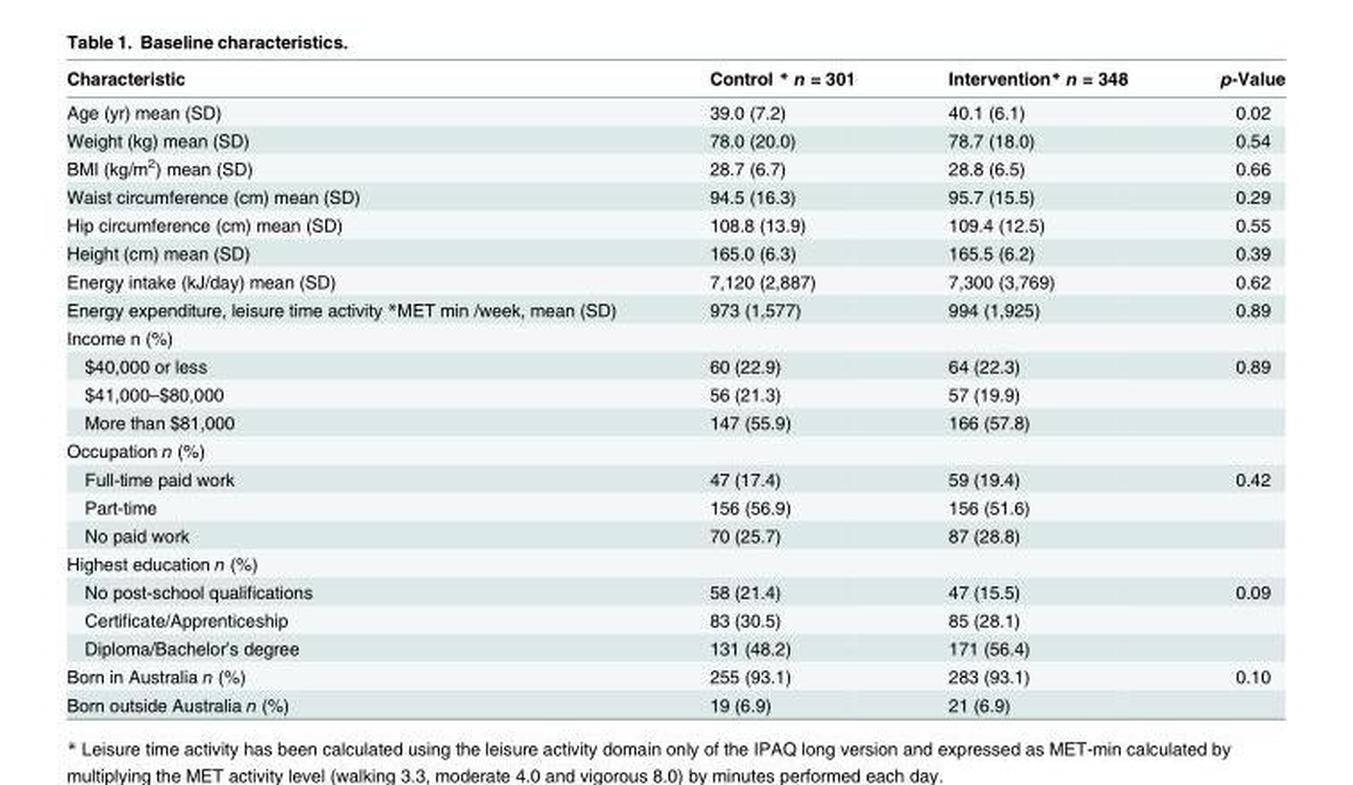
<table><thead><tr><td>Characteristic</td><td>Control * n = 301</td><td>Intervention* n = 348</td><td>p-Value</td></tr></thead><tbody><tr><td>Age (yr) mean (SD)</td><td>39.0 (7.2)</td><td>40.1 (6.1)</td><td>0.02</td></tr><tr><td>Weight (kg) mean (SD)</td><td>78.0 (20.0)</td><td>78.7 (18.0)</td><td>0.54</td></tr><tr><td>BMI (kg/m<sup>2</sup>) mean (SD)</td><td>28.7 (6.7)</td><td>28.8 (6.5)</td><td>0.66</td></tr><tr><td>Waist circumference (cm) mean (SD)</td><td>94.5 (16.3)</td><td>95.7 (15.5)</td><td>0.29</td></tr><tr><td>Hip circumference (cm) mean (SD)</td><td>108.8 (13.9)</td><td>109.4 (12.5)</td><td>0.55</td></tr><tr><td>Height (cm) mean (SD)</td><td>165.0 (6.3)</td><td>165.5 (6.2)</td><td>0.39</td></tr><tr><td>Energy intake (kJ/day) mean (SD)</td><td>7,120 (2,887)</td><td>7,300 (3,769)</td><td>0.62</td></tr><tr><td>Energy expenditure, leisure time activity *MET min /week, mean (SD)</td><td>973 (1,577)</td><td>994 (1,925)</td><td>0.89</td></tr><tr><td colspan="4">Income n (%)</td></tr><tr><td>$40,000 or less</td><td>60 (22.9)</td><td>64 (22.3)</td><td>0.89</td></tr><tr><td>$41,000–$80,000</td><td>56 (21.3)</td><td>57 (19.9)</td><td></td></tr><tr><td>More than $81,000</td><td>147 (55.9)</td><td>166 (57.8)</td><td></td></tr><tr><td colspan="4">Occupation n (%)</td></tr><tr><td>Full-time paid work</td><td>47 (17.4)</td><td>59 (19.4)</td><td>0.42</td></tr><tr><td>Part-time</td><td>156 (56.9)</td><td>156 (51.6)</td><td></td></tr><tr><td>No paid work</td><td>70 (25.7)</td><td>87 (28.8)</td><td></td></tr><tr><td colspan="4">Highest education n (%)</td></tr><tr><td>No post-school qualifications</td><td>58 (21.4)</td><td>47 (15.5)</td><td>0.09</td></tr><tr><td>Certificate/Apprenticeship</td><td>83 (30.5)</td><td>85 (28.1)</td><td></td></tr><tr><td>Diploma/Bachelor’s degree</td><td>131 (48.2)</td><td>171 (56.4)</td><td></td></tr><tr><td>Born in Australia n (%)</td><td>255 (93.1)</td><td>283 (93.1)</td><td>0.10</td></tr><tr><td>Born outside Australia n (%)</td><td>19 (6.9)</td><td>21 (6.9)</td><td></td></tr></tbody></table>